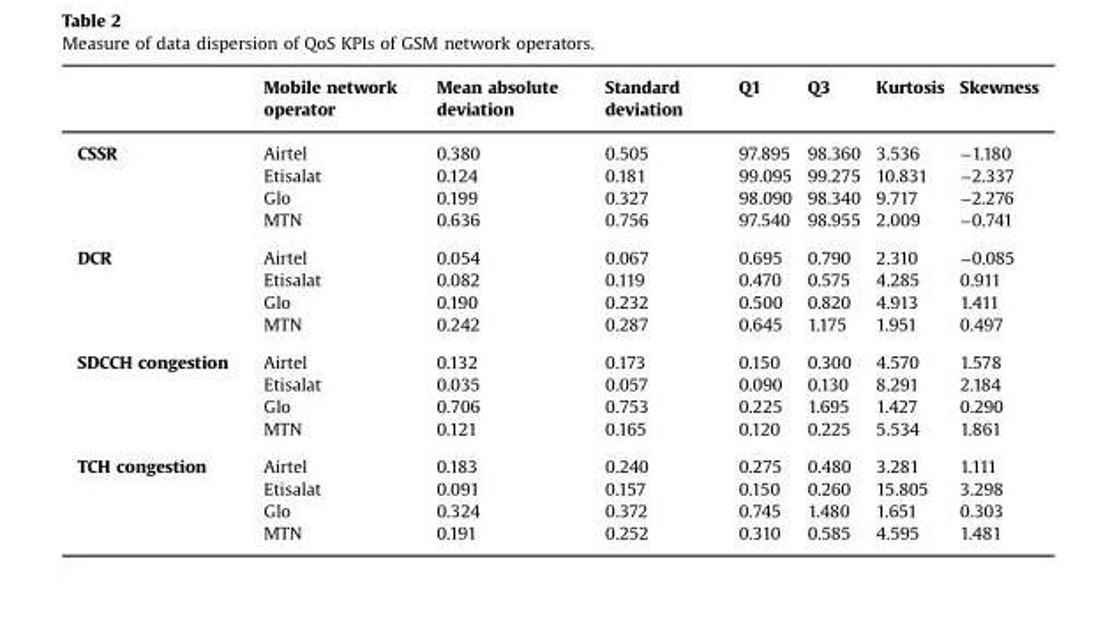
<table><thead><tr><td></td><td>Mobile network operator</td><td>Mean absolute deviation</td><td>Standard deviation</td><td>Q1</td><td>Q3</td><td>Kurtosis</td><td>Skewness</td></tr></thead><tbody><tr><td rowspan="4">CSSR</td><td>Airtel</td><td>0.380</td><td>0.505</td><td>97.895</td><td>98.360</td><td>3.536</td><td>−1.180</td></tr><tr><td>Etisalat</td><td>0.124</td><td>0.181</td><td>99.095</td><td>99.275</td><td>10.831</td><td>−2.337</td></tr><tr><td>Glo</td><td>0.199</td><td>0.327</td><td>98.090</td><td>98.340</td><td>9.717</td><td>−2.276</td></tr><tr><td>MTN</td><td>0.636</td><td>0.756</td><td>97.540</td><td>98.955</td><td>2.009</td><td>−0.741</td></tr><tr><td rowspan="4">DCR</td><td>Airtel</td><td>0.054</td><td>0.067</td><td>0.695</td><td>0.790</td><td>2.310</td><td>−0.085</td></tr><tr><td>Etisalat</td><td>0.082</td><td>0.119</td><td>0.470</td><td>0.575</td><td>4.285</td><td>0.911</td></tr><tr><td>Glo</td><td>0.190</td><td>0.232</td><td>0.500</td><td>0.820</td><td>4.913</td><td>1.411</td></tr><tr><td>MTN</td><td>0.242</td><td>0.287</td><td>0.645</td><td>1.175</td><td>1.951</td><td>0.497</td></tr><tr><td rowspan="4">SDCCH congestion</td><td>Airtel</td><td>0.132</td><td>0.173</td><td>0.150</td><td>0.300</td><td>4.570</td><td>1.578</td></tr><tr><td>Etisalat</td><td>0.035</td><td>0.057</td><td>0.090</td><td>0.130</td><td>8.291</td><td>2.184</td></tr><tr><td>Glo</td><td>0.706</td><td>0.753</td><td>0.225</td><td>1.695</td><td>1.427</td><td>0.290</td></tr><tr><td>MTN</td><td>0.121</td><td>0.165</td><td>0.120</td><td>0.225</td><td>5.534</td><td>1.861</td></tr><tr><td rowspan="4">TCH congestion</td><td>Airtel</td><td>0.183</td><td>0.240</td><td>0.275</td><td>0.480</td><td>3.281</td><td>1.111</td></tr><tr><td>Etisalat</td><td>0.091</td><td>0.157</td><td>0.150</td><td>0.260</td><td>15.805</td><td>3.298</td></tr><tr><td>Glo</td><td>0.324</td><td>0.372</td><td>0.745</td><td>1.480</td><td>1.651</td><td>0.303</td></tr><tr><td>MTN</td><td>0.191</td><td>0.252</td><td>0.310</td><td>0.585</td><td>4.595</td><td>1.481</td></tr></tbody></table>